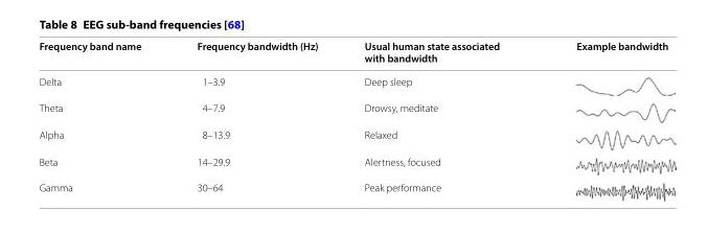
<table><thead><tr><td>Frequency band name</td><td>Frequency bandwidth (Hz)</td><td>Usual human state associated with bandwidth</td><td>Example bandwidth</td></tr></thead><tbody><tr><td>Delta</td><td>1–3.9</td><td>Deep sleep</td><td></td></tr><tr><td>Theta</td><td>4–7.9</td><td>Drowsy, meditate</td><td></td></tr><tr><td>Alpha</td><td>8–13.9</td><td>Relaxed</td><td></td></tr><tr><td>Beta</td><td>14–29.9</td><td>Alertness, focused</td><td></td></tr><tr><td>Gamma</td><td>30–64</td><td>Peak performance</td><td></td></tr></tbody></table>